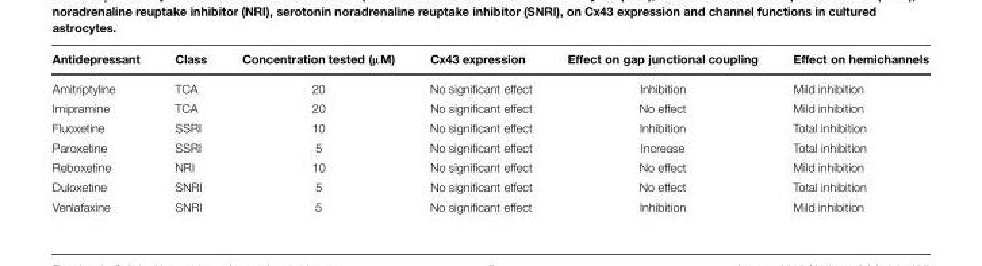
<table><thead><tr><td>Antidepressant</td><td>Class</td><td>Concentration tested (µM)</td><td>Cx43 expression</td><td>Effect on gap junctional coupling</td><td>Effect on hemichannels</td></tr></thead><tbody><tr><td>Amitriptyline</td><td>TCA</td><td>20</td><td>No significant effect</td><td>Inhibition</td><td>Mild inhibition</td></tr><tr><td>Imipramine</td><td>TCA</td><td>20</td><td>No significant effect</td><td>No effect</td><td>Mild inhibition</td></tr><tr><td>Fluoxetine</td><td>SSRI</td><td>10</td><td>No significant effect</td><td>Inhibition</td><td>Total inhibition</td></tr><tr><td>Paroxetine</td><td>SSRI</td><td>5</td><td>No significant effect</td><td>Increase</td><td>Total inhibition</td></tr><tr><td>Reboxetine</td><td>NRI</td><td>10</td><td>No significant effect</td><td>No effect</td><td>Mild inhibition</td></tr><tr><td>Duloxetine</td><td>SNRI</td><td>5</td><td>No significant effect</td><td>No effect</td><td>Total inhibition</td></tr><tr><td>Venlafaxine</td><td>SNRI</td><td>5</td><td>No significant effect</td><td>Inhibition</td><td>Mild inhibition</td></tr></tbody></table>